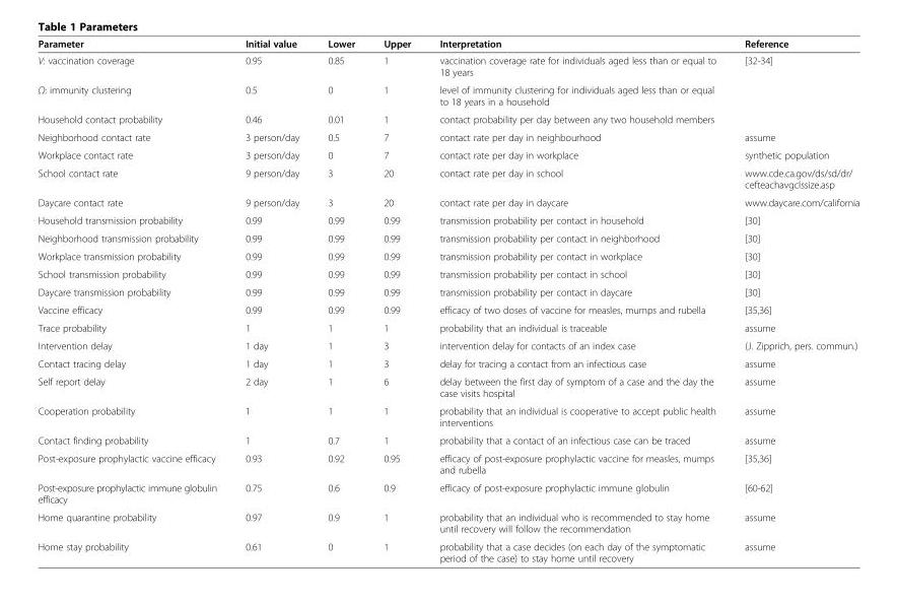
<table><thead><tr><td>Parameter</td><td>Initial value</td><td>Lower</td><td>Upper</td><td>Interpretation</td><td>Reference</td></tr></thead><tbody><tr><td>V: vaccination coverage</td><td>0.95</td><td>0.85</td><td>1</td><td>vaccination coverage rate for individuals aged less than or equal to 18 years</td><td>[32-34]</td></tr><tr><td>Ω: immunity clustering</td><td>0.5</td><td>0</td><td>1</td><td>level of immunity clustering for individuals aged less than or equal to 18 years in a household</td><td></td></tr><tr><td>Household contact probability</td><td>0.46</td><td>0.01</td><td>1</td><td>contact probability per day between any two household members</td><td></td></tr><tr><td>Neighborhood contact rate</td><td>3 person/day</td><td>0.5</td><td>7</td><td>contact rate per day in neighbourhood</td><td>assume</td></tr><tr><td>Workplace contact rate</td><td>3 person/day</td><td>0</td><td>7</td><td>contact rate per day in workplace</td><td>synthetic population</td></tr><tr><td>School contact rate</td><td>9 person/day</td><td>3</td><td>20</td><td>contact rate per day in school</td><td>www.cde.ca.gov/ds/sd/dr/ cefteachavgclssize.asp</td></tr><tr><td>Daycare contact rate</td><td>9 person/day</td><td>3</td><td>20</td><td>contact rate per day in daycare</td><td>www.daycare.com/california</td></tr><tr><td>Household transmission probability</td><td>0.99</td><td>0.99</td><td>0.99</td><td>transmission probability per contact in household</td><td>[30]</td></tr><tr><td>Neighborhood transmission probability</td><td>0.99</td><td>0.99</td><td>0.99</td><td>transmission probability per contact in neighborhood</td><td>[30]</td></tr><tr><td>Workplace transmission probability</td><td>0.99</td><td>0.99</td><td>0.99</td><td>transmission probability per contact in workplace</td><td>[30]</td></tr><tr><td>School transmission probability</td><td>0.99</td><td>0.99</td><td>0.99</td><td>transmission probability per contact in school</td><td>[30]</td></tr><tr><td>Daycare transmission probability</td><td>0.99</td><td>0.99</td><td>0.99</td><td>transmission probability per contact in daycare</td><td>[30]</td></tr><tr><td>Vaccine efficacy</td><td>0.99</td><td>0.99</td><td>0.99</td><td>efficacy of two doses of vaccine for measles, mumps and rubella</td><td>[35,36]</td></tr><tr><td>Trace probability</td><td>1</td><td>1</td><td>1</td><td>probability that an individual is traceable</td><td>assume</td></tr><tr><td>Intervention delay</td><td>1 day</td><td>1</td><td>3</td><td>intervention delay for contacts of an index case</td><td>(J. Zipprich, pers. commun.)</td></tr><tr><td>Contact tracing delay</td><td>1 day</td><td>1</td><td>3</td><td>delay for tracing a contact from an infectious case</td><td>assume</td></tr><tr><td>Self report delay</td><td>2 day</td><td>1</td><td>6</td><td>delay between the first day of symptom of a case and the day the case visits hospital</td><td>assume</td></tr><tr><td>Cooperation probability</td><td>1</td><td>1</td><td>1</td><td>probability that an individual is cooperative to accept public health interventions</td><td>assume</td></tr><tr><td>Contact finding probability</td><td>1</td><td>0.7</td><td>1</td><td>probability that a contact of an infectious case can be traced</td><td>assume</td></tr><tr><td>Post-exposure prophylactic vaccine efficacy</td><td>0.93</td><td>0.92</td><td>0.95</td><td>efficacy of post-exposure prophylactic vaccine for measles, mumps and rubella</td><td>[35,36]</td></tr><tr><td>Post-exposure prophylactic immune globulin efficacy</td><td>0.75</td><td>0.6</td><td>0.9</td><td>efficacy of post-exposure prophylactic immune globulin</td><td>[60-62]</td></tr><tr><td>Home quarantine probability</td><td>0.97</td><td>0.9</td><td>1</td><td>probability that an individual who is recommended to stay home until recovery will follow the recommendation</td><td>assume</td></tr><tr><td>Home stay probability</td><td>0.61</td><td>0</td><td>1</td><td>probability that a case decides (on each day of the symptomatic period of the case) to stay home until recovery</td><td>assume</td></tr></tbody></table>